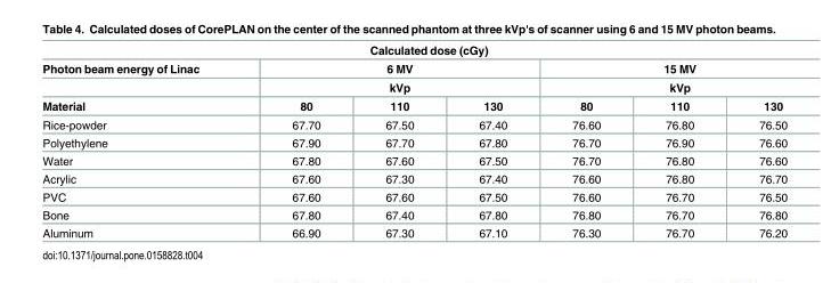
<table><thead><tr><td colspan="7">Calculated dose (cGy)</td></tr><tr><td rowspan="3">Photon beam energy of Linac Material</td><td rowspan="2" colspan="3">6 MV kVp</td><td rowspan="2" colspan="3">15 MV kVp</td></tr><tr></tr><tr><td>80</td><td>110</td><td>130</td><td>80</td><td>110</td><td>130</td></tr></thead><tbody><tr><td>Rice-powder</td><td>67.70</td><td>67.50</td><td>67.40</td><td>76.60</td><td>76.80</td><td>76.50</td></tr><tr><td>Polyethylene</td><td>67.90</td><td>67.70</td><td>67.80</td><td>76.70</td><td>76.90</td><td>76.60</td></tr><tr><td>Water</td><td>67.80</td><td>67.60</td><td>67.50</td><td>76.70</td><td>76.80</td><td>76.60</td></tr><tr><td>Acrylic</td><td>67.60</td><td>67.30</td><td>67.40</td><td>76.60</td><td>76.80</td><td>76.70</td></tr><tr><td>PVC</td><td>67.60</td><td>67.60</td><td>67.50</td><td>76.60</td><td>76.70</td><td>76.50</td></tr><tr><td>Bone</td><td>67.80</td><td>67.40</td><td>67.80</td><td>76.80</td><td>76.70</td><td>76.80</td></tr><tr><td>Aluminum</td><td>66.90</td><td>67.30</td><td>67.10</td><td>76.30</td><td>76.70</td><td>76.20</td></tr></tbody></table>